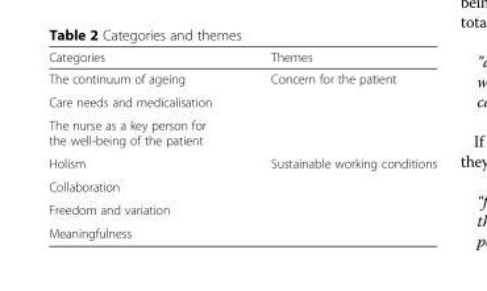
<table><thead><tr><td>Categories</td><td>Themes</td></tr></thead><tbody><tr><td>The continuum of ageing</td><td rowspan="3">Concern for the patient</td></tr><tr><td>Care needs and medicalisation</td></tr><tr><td>The nurse as a key person for the well-being of the patient</td></tr><tr><td>Holism</td><td rowspan="4">Sustainable working conditions</td></tr><tr><td>Collaboration</td></tr><tr><td>Freedom and variation</td></tr><tr><td>Meaningfulness</td></tr></tbody></table>